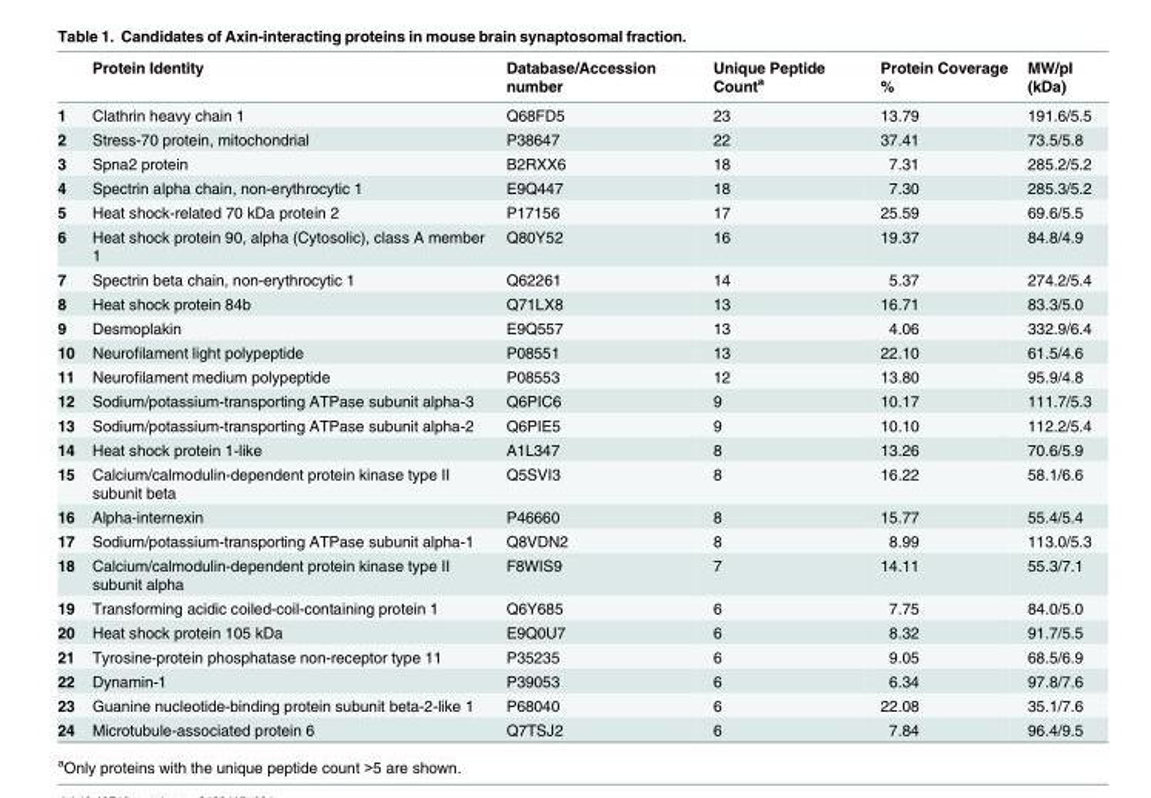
<table><thead><tr><td></td><td>Protein Identity</td><td>Database/Accession number</td><td>Unique Peptide Count<sup>a</sup></td><td>Protein Coverage %</td><td>MW/pI (kDa)</td></tr></thead><tbody><tr><td>1</td><td>Clathrin heavy chain 1</td><td>Q68FD5</td><td>23</td><td>13.79</td><td>191.6/5.5</td></tr><tr><td>2</td><td>Stress-70 protein, mitochondrial</td><td>P38647</td><td>22</td><td>37.41</td><td>73.5/5.8</td></tr><tr><td>3</td><td>Spna2 protein</td><td>B2RXX6</td><td>18</td><td>7.31</td><td>285.2/5.2</td></tr><tr><td>4</td><td>Spectrin alpha chain, non-erythrocytic 1</td><td>E9Q447</td><td>18</td><td>7.30</td><td>285.3/5.2</td></tr><tr><td>5</td><td>Heat shock-related 70 kDa protein 2</td><td>P17156</td><td>17</td><td>25.59</td><td>69.6/5.5</td></tr><tr><td>6</td><td>Heat shock protein 90, alpha (Cytosolic), class A member 1</td><td>Q80Y52</td><td>16</td><td>19.37</td><td>84.8/4.9</td></tr><tr><td>7</td><td>Spectrin beta chain, non-erythrocytic 1</td><td>Q62261</td><td>14</td><td>5.37</td><td>274.2/5.4</td></tr><tr><td>8</td><td>Heat shock protein 84b</td><td>Q71LX8</td><td>13</td><td>16.71</td><td>83.3/5.0</td></tr><tr><td>9</td><td>Desmoplakin</td><td>E9Q557</td><td>13</td><td>4.06</td><td>332.9/6.4</td></tr><tr><td>10</td><td>Neurofilament light polypeptide</td><td>P08551</td><td>13</td><td>22.10</td><td>61.5/4.6</td></tr><tr><td>11</td><td>Neurofilament medium polypeptide</td><td>P08553</td><td>12</td><td>13.80</td><td>95.9/4.8</td></tr><tr><td>12</td><td>Sodium/potassium-transporting ATPase subunit alpha-3</td><td>Q6PIC6</td><td>9</td><td>10.17</td><td>111.7/5.3</td></tr><tr><td>13</td><td>Sodium/potassium-transporting ATPase subunit alpha-2</td><td>Q6PIE5</td><td>9</td><td>10.10</td><td>112.2/5.4</td></tr><tr><td>14</td><td>Heat shock protein 1-like</td><td>A1L347</td><td>8</td><td>13.26</td><td>70.6/5.9</td></tr><tr><td>15</td><td>Calcium/calmodulin-dependent protein kinase type II subunit beta</td><td>Q5SVI3</td><td>8</td><td>16.22</td><td>58.1/6.6</td></tr><tr><td>16</td><td>Alpha-internexin</td><td>P46660</td><td>8</td><td>15.77</td><td>55.4/5.4</td></tr><tr><td>17</td><td>Sodium/potassium-transporting ATPase subunit alpha-1</td><td>Q8VDN2</td><td>8</td><td>8.99</td><td>113.0/5.3</td></tr><tr><td>18</td><td>Calcium/calmodulin-dependent protein kinase type II subunit alpha</td><td>F8WIS9</td><td>7</td><td>14.11</td><td>55.3/7.1</td></tr><tr><td>19</td><td>Transforming acidic coiled-coil-containing protein 1</td><td>Q6Y685</td><td>6</td><td>7.75</td><td>84.0/5.0</td></tr><tr><td>20</td><td>Heat shock protein 105 kDa</td><td>E9Q0U7</td><td>6</td><td>8.32</td><td>91.7/5.5</td></tr><tr><td>21</td><td>Tyrosine-protein phosphatase non-receptor type 11</td><td>P35235</td><td>6</td><td>9.05</td><td>68.5/6.9</td></tr><tr><td>22</td><td>Dynamin-1</td><td>P39053</td><td>6</td><td>6.34</td><td>97.8/7.6</td></tr><tr><td>23</td><td>Guanine nucleotide-binding protein subunit beta-2-like 1</td><td>P68040</td><td>6</td><td>22.08</td><td>35.1/7.6</td></tr><tr><td>24</td><td>Microtubule-associated protein 6</td><td>Q7TSJ2</td><td>6</td><td>7.84</td><td>96.4/9.5</td></tr></tbody></table>